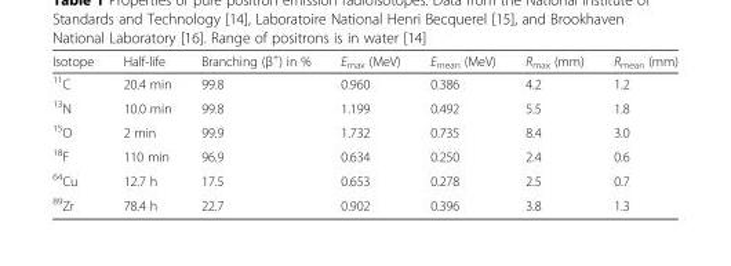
<table><thead><tr><td>Isotope</td><td>Half-life</td><td>Branching (β<sup>+</sup>) in %</td><td>E<sub>max</sub> (MeV)</td><td>E<sub>mean</sub> (MeV)</td><td>R<sub>max</sub> (mm)</td><td>R<sub>mean</sub> (mm)</td></tr></thead><tbody><tr><td><sup>11</sup>C</td><td>20.4 min</td><td>99.8</td><td>0.960</td><td>0.386</td><td>4.2</td><td>1.2</td></tr><tr><td><sup>13</sup>N</td><td>10.0 min</td><td>99.8</td><td>1.199</td><td>0.492</td><td>5.5</td><td>1.8</td></tr><tr><td><sup>15</sup>O</td><td>2 min</td><td>99.9</td><td>1.732</td><td>0.735</td><td>8.4</td><td>3.0</td></tr><tr><td><sup>18</sup>F</td><td>110 min</td><td>96.9</td><td>0.634</td><td>0.250</td><td>2.4</td><td>0.6</td></tr><tr><td><sup>64</sup>Cu</td><td>12.7 h</td><td>17.5</td><td>0.653</td><td>0.278</td><td>2.5</td><td>0.7</td></tr><tr><td><sup>89</sup>Zr</td><td>78.4 h</td><td>22.7</td><td>0.902</td><td>0.396</td><td>3.8</td><td>1.3</td></tr></tbody></table>